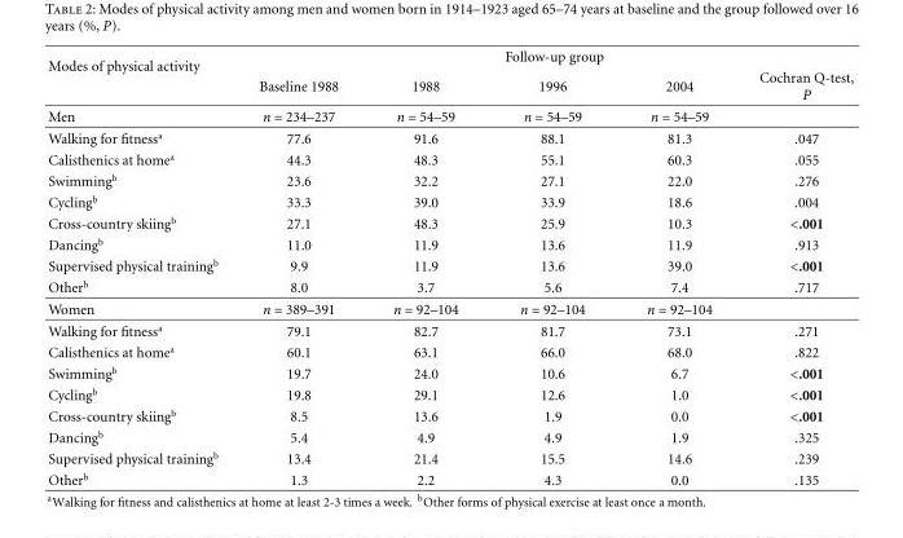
<table><thead><tr><td rowspan="2">Modes of physical activity</td><td colspan="5">Follow-up group</td></tr><tr><td>Baseline 1988</td><td>1988</td><td>1996</td><td>2004</td><td>Cochran Q-test, P</td></tr></thead><tbody><tr><td>Men</td><td>n = 234–237</td><td>n = 54–59</td><td>n = 54–59</td><td>n = 54–59</td><td></td></tr><tr><td>Walking for fitness<sup>a</sup></td><td>77.6</td><td>91.6</td><td>88.1</td><td>81.3</td><td>.047</td></tr><tr><td>Calisthenics at home<sup>a</sup></td><td>44.3</td><td>48.3</td><td>55.1</td><td>60.3</td><td>.055</td></tr><tr><td>Swimming<sup>b</sup></td><td>23.6</td><td>32.2</td><td>27.1</td><td>22.0</td><td>.276</td></tr><tr><td>Cycling<sup>b</sup></td><td>33.3</td><td>39.0</td><td>33.9</td><td>18.6</td><td>.004</td></tr><tr><td>Cross-country skiing<sup>b</sup></td><td>27.1</td><td>48.3</td><td>25.9</td><td>10.3</td><td>&lt;.001</td></tr><tr><td>Dancing<sup>b</sup></td><td>11.0</td><td>11.9</td><td>13.6</td><td>11.9</td><td>.913</td></tr><tr><td>Supervised physical training<sup>b</sup></td><td>9.9</td><td>11.9</td><td>13.6</td><td>39.0</td><td>&lt;.001</td></tr><tr><td>Other<sup>b</sup></td><td>8.0</td><td>3.7</td><td>5.6</td><td>7.4</td><td>.717</td></tr><tr><td>Women</td><td>n = 389–391</td><td>n = 92–104</td><td>n = 92–104</td><td>n = 92–104</td><td></td></tr><tr><td>Walking for fitness<sup>a</sup></td><td>79.1</td><td>82.7</td><td>81.7</td><td>73.1</td><td>.271</td></tr><tr><td>Calisthenics at home<sup>a</sup></td><td>60.1</td><td>63.1</td><td>66.0</td><td>68.0</td><td>.822</td></tr><tr><td>Swimming<sup>b</sup></td><td>19.7</td><td>24.0</td><td>10.6</td><td>6.7</td><td>&lt;.001</td></tr><tr><td>Cycling<sup>b</sup></td><td>19.8</td><td>29.1</td><td>12.6</td><td>1.0</td><td>&lt;.001</td></tr><tr><td>Cross-country skiing<sup>b</sup></td><td>8.5</td><td>13.6</td><td>1.9</td><td>0.0</td><td>&lt;.001</td></tr><tr><td>Dancing<sup>b</sup></td><td>5.4</td><td>4.9</td><td>4.9</td><td>1.9</td><td>.325</td></tr><tr><td>Supervised physical training<sup>b</sup></td><td>13.4</td><td>21.4</td><td>15.5</td><td>14.6</td><td>.239</td></tr><tr><td>Other<sup>b</sup></td><td>1.3</td><td>2.2</td><td>4.3</td><td>0.0</td><td>.135</td></tr></tbody></table>